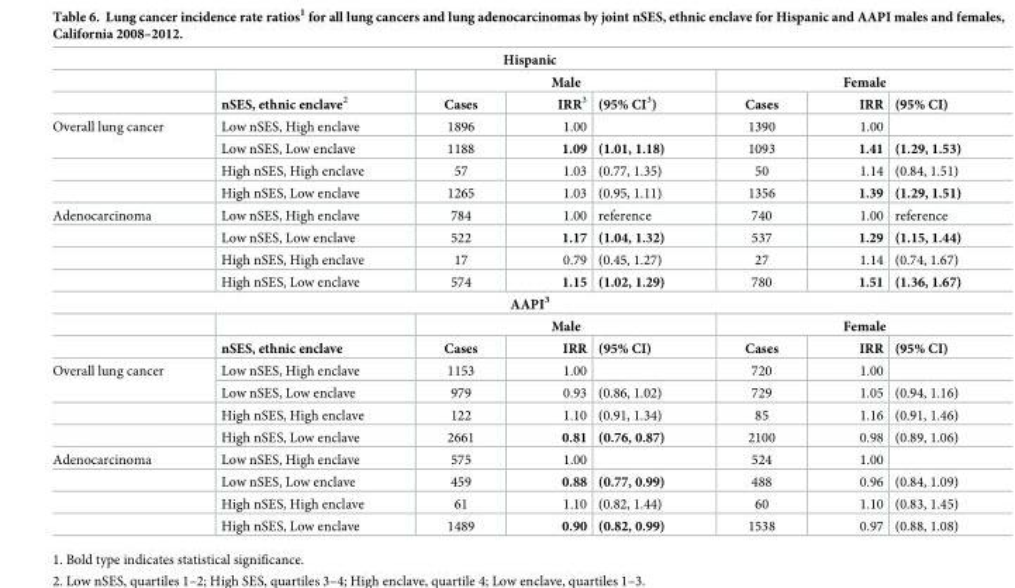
<table><tbody><tr><td colspan="8">Hispanic</td></tr><tr><td></td><td></td><td colspan="3">Male</td><td colspan="3">Female</td></tr><tr><td></td><td>nSES, ethnic enclave<sup>2</sup></td><td>Cases</td><td>IRR<sup>3</sup></td><td>(95% CI<sup>3</sup>)</td><td>Cases</td><td>IRR</td><td>(95% CI)</td></tr><tr><td rowspan="4">Overall lung cancer</td><td>Low nSES, High enclave</td><td>1896</td><td>1.00</td><td></td><td>1390</td><td>1.00</td><td></td></tr><tr><td>Low nSES, Low enclave</td><td>1188</td><td>1.09</td><td>(1.01, 1.18)</td><td>1093</td><td>1.41</td><td>(1.29, 1.53)</td></tr><tr><td>High nSES, High enclave</td><td>57</td><td>1.03</td><td>(0.77, 1.35)</td><td>50</td><td>1.14</td><td>(0.84, 1.51)</td></tr><tr><td>High nSES, Low enclave</td><td>1265</td><td>1.03</td><td>(0.95, 1.11)</td><td>1356</td><td>1.39</td><td>(1.29, 1.51)</td></tr><tr><td rowspan="4">Adenocarcinoma</td><td>Low nSES, High enclave</td><td>784</td><td>1.00</td><td>reference</td><td>740</td><td>1.00</td><td>reference</td></tr><tr><td>Low nSES, Low enclave</td><td>522</td><td>1.17</td><td>(1.04, 1.32)</td><td>537</td><td>1.29</td><td>(1.15, 1.44)</td></tr><tr><td>High nSES, High enclave</td><td>17</td><td>0.79</td><td>(0.45, 1.27)</td><td>27</td><td>1.14</td><td>(0.74, 1.67)</td></tr><tr><td>High nSES, Low enclave</td><td>574</td><td>1.15</td><td>(1.02, 1.29)</td><td>780</td><td>1.51</td><td>(1.36, 1.67)</td></tr><tr><td colspan="8">AAPI<sup>3</sup></td></tr><tr><td></td><td></td><td colspan="3">Male</td><td colspan="3">Female</td></tr><tr><td></td><td>nSES, ethnic enclave</td><td>Cases</td><td>IRR</td><td>(95% CI)</td><td>Cases</td><td>IRR</td><td>(95% CI)</td></tr><tr><td rowspan="4">Overall lung cancer</td><td>Low nSES, High enclave</td><td>1153</td><td>1.00</td><td></td><td>720</td><td>1.00</td><td></td></tr><tr><td>Low nSES, Low enclave</td><td>979</td><td>0.93</td><td>(0.86, 1.02)</td><td>729</td><td>1.05</td><td>(0.94, 1.16)</td></tr><tr><td>High nSES, High enclave</td><td>122</td><td>1.10</td><td>(0.91, 1.34)</td><td>85</td><td>1.16</td><td>(0.91, 1.46)</td></tr><tr><td>High nSES, Low enclave</td><td>2661</td><td>0.81</td><td>(0.76, 0.87)</td><td>2100</td><td>0.98</td><td>(0.89, 1.06)</td></tr><tr><td rowspan="4">Adenocarcinoma</td><td>Low nSES, High enclave</td><td>575</td><td>1.00</td><td></td><td>524</td><td>1.00</td><td></td></tr><tr><td>Low nSES, Low enclave</td><td>459</td><td>0.88</td><td>(0.77, 0.99)</td><td>488</td><td>0.96</td><td>(0.84, 1.09)</td></tr><tr><td>High nSES, High enclave</td><td>61</td><td>1.10</td><td>(0.82, 1.44)</td><td>60</td><td>1.10</td><td>(0.83, 1.45)</td></tr><tr><td>High nSES, Low enclave</td><td>1489</td><td>0.90</td><td>(0.82, 0.99)</td><td>1538</td><td>0.97</td><td>(0.88, 1.08)</td></tr></tbody></table>